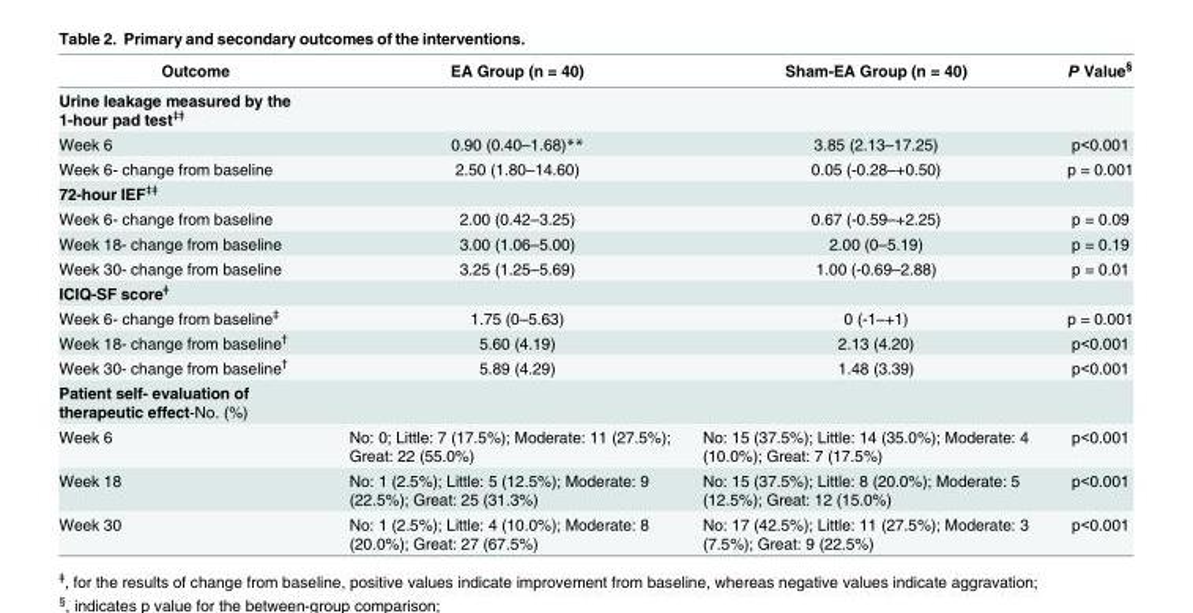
<table><thead><tr><td>Outcome</td><td>EA Group (n = 40)</td><td>Sham-EA Group (n = 40)</td><td>P Value<sup>§</sup></td></tr></thead><tbody><tr><td colspan="4">Urine leakage measured by the 1-hour pad test<sup>‡ǂ</sup></td></tr><tr><td>Week 6</td><td>0.90 (0.40–1.68)**</td><td>3.85 (2.13–17.25)</td><td>p&lt;0.001</td></tr><tr><td>Week 6- change from baseline</td><td>2.50 (1.80–14.60)</td><td>0.05 (-0.28–+0.50)</td><td>p = 0.001</td></tr><tr><td colspan="4">72-hour IEF<sup>‡ǂ</sup></td></tr><tr><td>Week 6- change from baseline</td><td>2.00 (0.42–3.25)</td><td>0.67 (-0.59–+2.25)</td><td>p = 0.09</td></tr><tr><td>Week 18- change from baseline</td><td>3.00 (1.06–5.00)</td><td>2.00 (0–5.19)</td><td>p = 0.19</td></tr><tr><td>Week 30- change from baseline</td><td>3.25 (1.25–5.69)</td><td>1.00 (-0.69–2.88)</td><td>p = 0.01</td></tr><tr><td colspan="4">ICIQ-SF score<sup>ǂ</sup></td></tr><tr><td>Week 6- change from baseline<sup>‡</sup></td><td>1.75 (0–5.63)</td><td>0 (-1–+1)</td><td>p = 0.001</td></tr><tr><td>Week 18- change from baseline<sup>†</sup></td><td>5.60 (4.19)</td><td>2.13 (4.20)</td><td>p&lt;0.001</td></tr><tr><td>Week 30- change from baseline<sup>†</sup></td><td>5.89 (4.29)</td><td>1.48 (3.39)</td><td>p&lt;0.001</td></tr><tr><td colspan="4">Patient self- evaluation of therapeutic effect-No. (%)</td></tr><tr><td>Week 6</td><td>No: 0; Little: 7 (17.5%); Moderate: 11 (27.5%); Great: 22 (55.0%)</td><td>No: 15 (37.5%); Little: 14 (35.0%); Moderate: 4 (10.0%); Great: 7 (17.5%)</td><td>p&lt;0.001</td></tr><tr><td>Week 18</td><td>No: 1 (2.5%); Little: 5 (12.5%); Moderate: 9 (22.5%); Great: 25 (31.3%)</td><td>No: 15 (37.5%); Little: 8 (20.0%); Moderate: 5 (12.5%); Great: 12 (15.0%)</td><td>p&lt;0.001</td></tr><tr><td>Week 30</td><td>No: 1 (2.5%); Little: 4 (10.0%); Moderate: 8 (20.0%); Great: 27 (67.5%)</td><td>No: 17 (42.5%); Little: 11 (27.5%); Moderate: 3 (7.5%); Great: 9 (22.5%)</td><td>p&lt;0.001</td></tr></tbody></table>